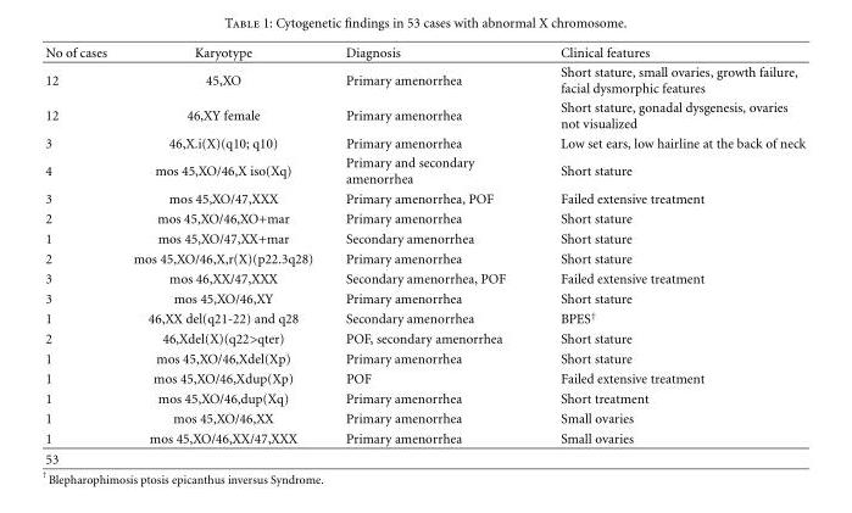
<table><thead><tr><td>No of cases</td><td>Karyotype</td><td>Diagnosis</td><td>Clinical features</td></tr></thead><tbody><tr><td>12</td><td>45,XO</td><td>Primary amenorrhea</td><td>Short stature, small ovaries, growth failure, facial dysmorphic features</td></tr><tr><td>12</td><td>46,XY female</td><td>Primary amenorrhea</td><td>Short stature, gonadal dysgenesis, ovaries not visualized</td></tr><tr><td>3</td><td>46,X.i(X)(q10; q10)</td><td>Primary amenorrhea</td><td>Low set ears, low hairline at the back of neck</td></tr><tr><td>4</td><td>mos 45,XO/46,X iso(Xq)</td><td>Primary and secondary amenorrhea</td><td>Short stature</td></tr><tr><td>3</td><td>mos 45,XO/47,XXX</td><td>Primary amenorrhea, POF</td><td>Failed extensive treatment</td></tr><tr><td>2</td><td>mos 45,XO/46,XO+mar</td><td>Primary amenorrhea</td><td>Short stature</td></tr><tr><td>1</td><td>mos 45,XO/47,XX+mar</td><td>Secondary amenorrhea</td><td>Short stature</td></tr><tr><td>2</td><td>mos 45,XO/46,X,r(X)(p22.3q28)</td><td>Primary amenorrhea</td><td>Short stature</td></tr><tr><td>3</td><td>mos 46,XX/47,XXX</td><td>Secondary amenorrhea, POF</td><td>Failed extensive treatment</td></tr><tr><td>3</td><td>mos 45,XO/46,XY</td><td>Primary amenorrhea</td><td>Short stature</td></tr><tr><td>1</td><td>46,XX del(q21-22) and q28</td><td>Secondary amenorrhea</td><td>BPES<sup>†</sup></td></tr><tr><td>2</td><td>46,Xdel(X)(q22&gt;qter)</td><td>POF, secondary amenorrhea</td><td>Short stature</td></tr><tr><td>1</td><td>mos 45,XO/46,Xdel(Xp)</td><td>Primary amenorrhea</td><td>Short stature</td></tr><tr><td>1</td><td>mos 45,XO/46,Xdup(Xp)</td><td>POF</td><td>Failed extensive treatment</td></tr><tr><td>1</td><td>mos 45,XO/46,dup(Xq)</td><td>Primary amenorrhea</td><td>Short treatment</td></tr><tr><td>1</td><td>mos 45,XO/46,XX</td><td>Primary amenorrhea</td><td>Small ovaries</td></tr><tr><td>1</td><td>mos 45,XO/46,XX/47,XXX</td><td>Primary amenorrhea</td><td>Small ovaries</td></tr><tr><td>53</td><td></td><td></td><td></td></tr></tbody></table>